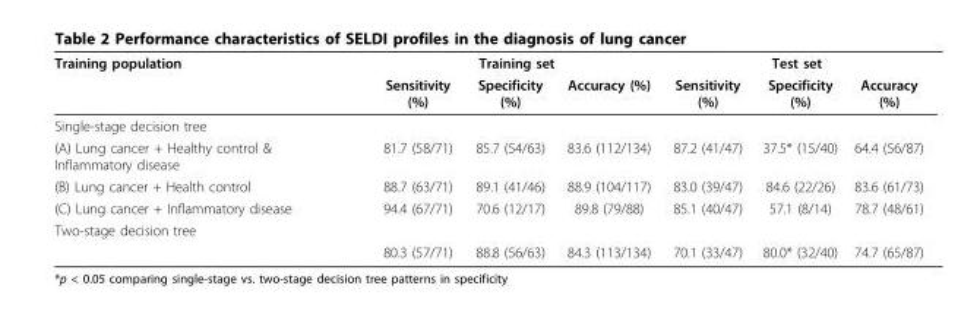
<table><tbody><tr><td rowspan="2">Training population</td><td colspan="3">Training set</td><td colspan="3">Test set</td></tr><tr><td>Sensitivity (%)</td><td>Specificity (%)</td><td>Accuracy (%)</td><td>Sensitivity (%)</td><td>Specificity (%)</td><td>Accuracy (%)</td></tr><tr><td colspan="7">Single-stage decision tree</td></tr><tr><td>(A) Lung cancer + Healthy control &amp; Inflammatory disease</td><td>81.7 (58/71)</td><td>85.7 (54/63)</td><td>83.6 (112/134)</td><td>87.2 (41/47)</td><td>37.5* (15/40)</td><td>64.4 (56/87)</td></tr><tr><td>(B) Lung cancer + Health control</td><td>88.7 (63/71)</td><td>89.1 (41/46)</td><td>88.9 (104/117)</td><td>83.0 (39/47)</td><td>84.6 (22/26)</td><td>83.6 (61/73)</td></tr><tr><td>(C) Lung cancer + Inflammatory disease</td><td>94.4 (67/71)</td><td>70.6 (12/17)</td><td>89.8 (79/88)</td><td>85.1 (40/47)</td><td>57.1 (8/14)</td><td>78.7 (48/61)</td></tr><tr><td colspan="7">Two-stage decision tree</td></tr><tr><td></td><td>80.3 (57/71)</td><td>88.8 (56/63)</td><td>84.3 (113/134)</td><td>70.1 (33/47)</td><td>80.0* (32/40)</td><td>74.7 (65/87)</td></tr></tbody></table>